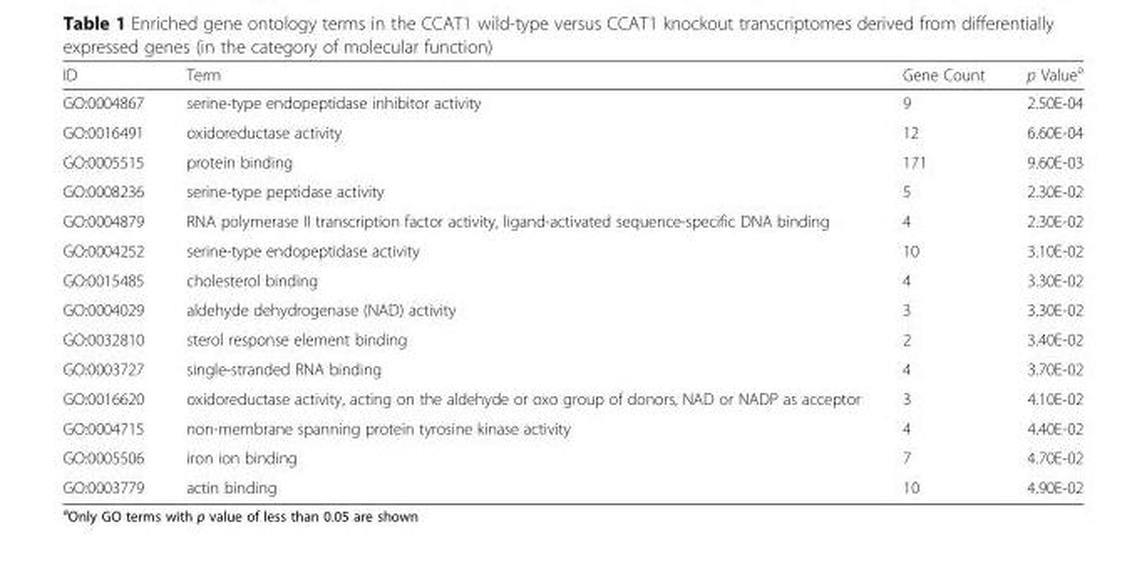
<table><thead><tr><td>ID</td><td>Term</td><td>Gene Count</td><td>p Value<sup>a</sup></td></tr></thead><tbody><tr><td>GO:0004867</td><td>serine-type endopeptidase inhibitor activity</td><td>9</td><td>2.50E-04</td></tr><tr><td>GO:0016491</td><td>oxidoreductase activity</td><td>12</td><td>6.60E-04</td></tr><tr><td>GO:0005515</td><td>protein binding</td><td>171</td><td>9.60E-03</td></tr><tr><td>GO:0008236</td><td>serine-type peptidase activity</td><td>5</td><td>2.30E-02</td></tr><tr><td>GO:0004879</td><td>RNA polymerase II transcription factor activity, ligand-activated sequence-specific DNA binding</td><td>4</td><td>2.30E-02</td></tr><tr><td>GO:0004252</td><td>serine-type endopeptidase activity</td><td>10</td><td>3.10E-02</td></tr><tr><td>GO:0015485</td><td>cholesterol binding</td><td>4</td><td>3.30E-02</td></tr><tr><td>GO:0004029</td><td>aldehyde dehydrogenase (NAD) activity</td><td>3</td><td>3.30E-02</td></tr><tr><td>GO:0032810</td><td>sterol response element binding</td><td>2</td><td>3.40E-02</td></tr><tr><td>GO:0003727</td><td>single-stranded RNA binding</td><td>4</td><td>3.70E-02</td></tr><tr><td>GO:0016620</td><td>oxidoreductase activity, acting on the aldehyde or oxo group of donors, NAD or NADP as acceptor</td><td>3</td><td>4.10E-02</td></tr><tr><td>GO:0004715</td><td>non-membrane spanning protein tyrosine kinase activity</td><td>4</td><td>4.40E-02</td></tr><tr><td>GO:0005506</td><td>iron ion binding</td><td>7</td><td>4.70E-02</td></tr><tr><td>GO:0003779</td><td>actin binding</td><td>10</td><td>4.90E-02</td></tr></tbody></table>